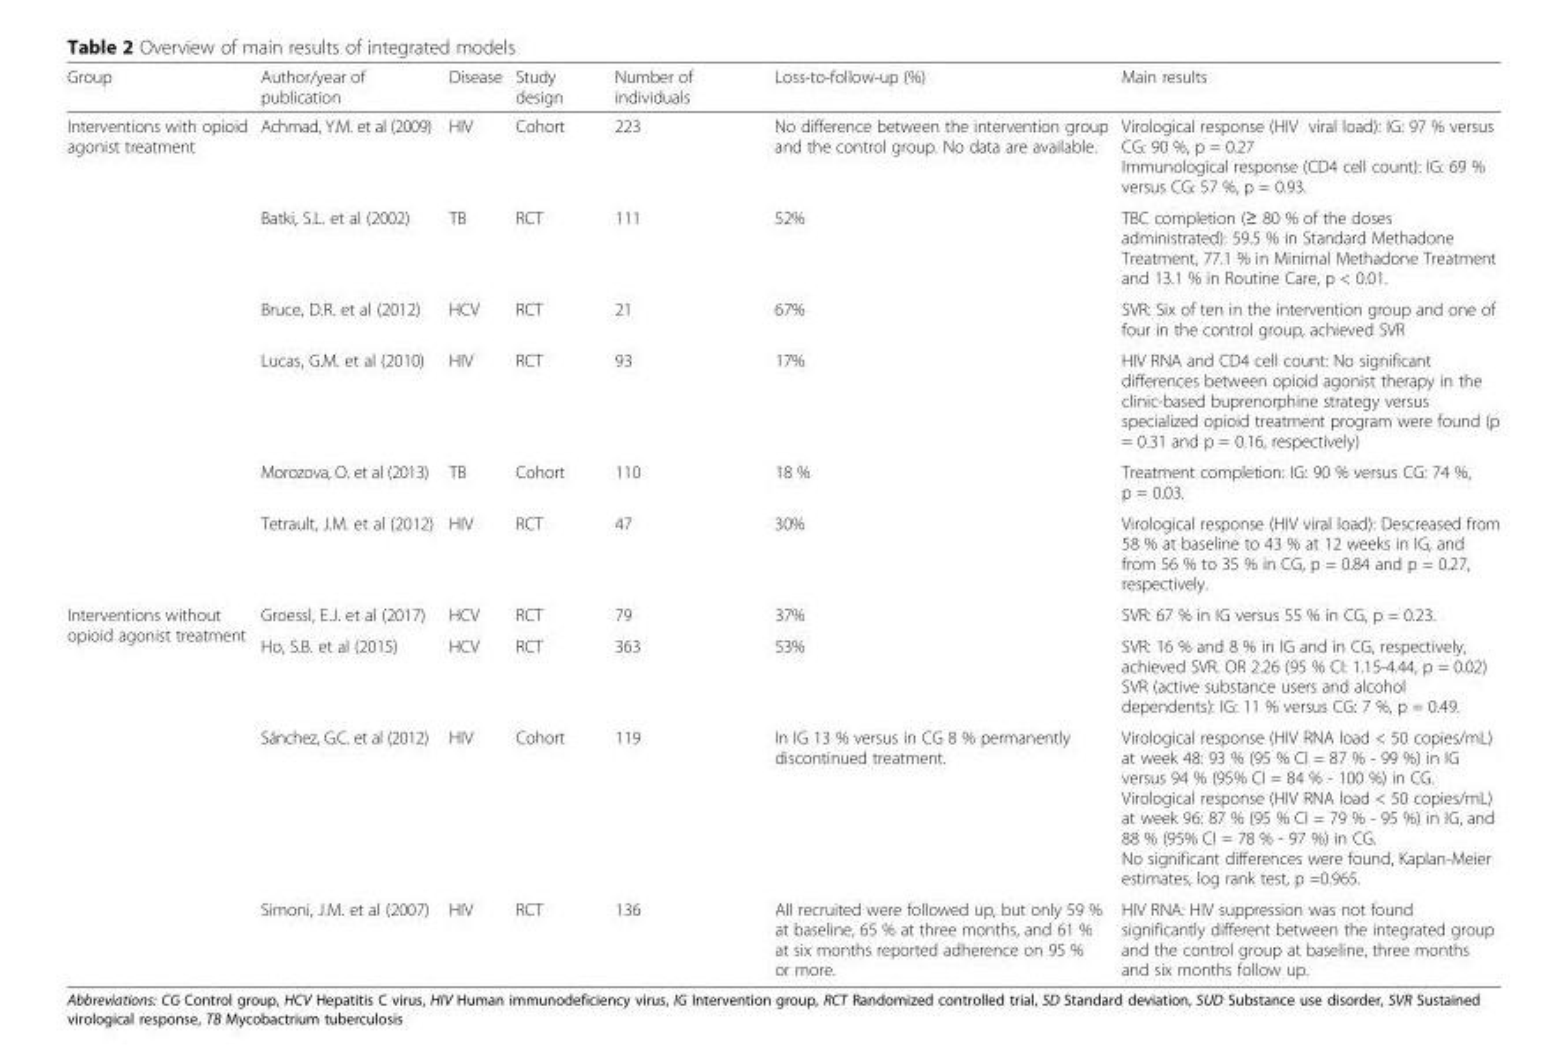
<table><thead><tr><td>Group</td><td>Author/year of publication</td><td>Disease</td><td>Study design</td><td>Number of individuals</td><td>Loss-to-follow-up (%)</td><td>Main results</td></tr></thead><tbody><tr><td rowspan="6">Interventions with opioid agonist treatment</td><td>Achmad, Y.M. et al (2009)</td><td>HIV</td><td>Cohort</td><td>223</td><td>No difference between the intervention group and the control group. No data are available.</td><td>Virological response (HIV viral load): IG: 97 % versus CG: 90 %, p = 0.27 Immunological response (CD4 cell count): IG: 69 % versus CG: 57 %, p = 0.93.</td></tr><tr><td>Batki, S.L. et al (2002)</td><td>TB</td><td>RCT</td><td>111</td><td>52%</td><td>TBC completion (≥ 80 % of the doses administrated): 59.5 % in Standard Methadone Treatment, 77.1 % in Minimal Methadone Treatment and 13.1 % in Routine Care, p &lt; 0.01.</td></tr><tr><td>Bruce, D.R. et al (2012)</td><td>HCV</td><td>RCT</td><td>21</td><td>67%</td><td>SVR: Six of ten in the intervention group and one of four in the control group, achieved SVR</td></tr><tr><td>Lucas, G.M. et al (2010)</td><td>HIV</td><td>RCT</td><td>93</td><td>17%</td><td>HIV RNA and CD4 cell count: No significant differences between opioid agonist therapy in the clinic-based buprenorphine strategy versus specialized opioid treatment program were found (p = 0.31 and p = 0.16, respectively)</td></tr><tr><td>Morozova, O. et al (2013)</td><td>TB</td><td>Cohort</td><td>110</td><td>18 %</td><td>Treatment completion: IG: 90 % versus CG: 74 %, p = 0.03.</td></tr><tr><td>Tetrault, J.M. et al (2012)</td><td>HIV</td><td>RCT</td><td>47</td><td>30%</td><td>Virological response (HIV viral load): Descreased from 58 % at baseline to 43 % at 12 weeks in IG, and from 56 % to 35 % in CG, p = 0.84 and p = 0.27, respectively.</td></tr><tr><td rowspan="4">Interventions without opioid agonist treatment</td><td>Groessl, E.J. et al (2017)</td><td>HCV</td><td>RCT</td><td>79</td><td>37%</td><td>SVR: 67 % in IG versus 55 % in CG, p = 0.23.</td></tr><tr><td>Ho, S.B. et al (2015)</td><td>HCV</td><td>RCT</td><td>363</td><td>53%</td><td>SVR: 16 % and 8 % in IG and in CG, respectively, achieved SVR. OR 2.26 (95 % CI: 1.15-4.44, p = 0.02) SVR (active substance users and alcohol dependents): IG: 11 % versus CG: 7 %, p = 0.49.</td></tr><tr><td>Sánchez, G.C. et al (2012)</td><td>HIV</td><td>Cohort</td><td>119</td><td>In IG 13 % versus in CG 8 % permanently discontinued treatment.</td><td>Virological response (HIV RNA load &lt; 50 copies/mL) at week 48: 93 % (95 % CI = 87 % - 99 %) in IG versus 94 % (95% CI = 84 % - 100 %) in CG. Virological response (HIV RNA load &lt; 50 copies/mL) at week 96: 87 % (95 % CI = 79 % - 95 %) in IG, and 88 % (95% CI = 78 % - 97 %) in CG. No significant differences were found, Kaplan-Meier estimates, log rank test, p =0.965.</td></tr><tr><td>Simoni, J.M. et al (2007)</td><td>HIV</td><td>RCT</td><td>136</td><td>All recruited were followed up, but only 59 % at baseline, 65 % at three months, and 61 % at six months reported adherence on 95 % or more.</td><td>HIV RNA: HIV suppression was not found significantly different between the integrated group and the control group at baseline, three months and six months follow up.</td></tr></tbody></table>